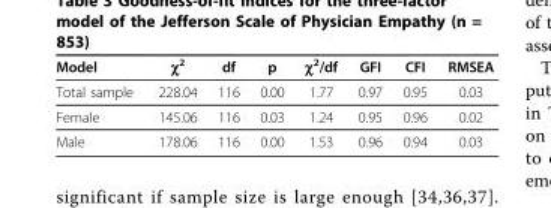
<table><thead><tr><td>Model</td><td>χ<sup>2</sup></td><td>df</td><td>p</td><td>χ<sup>2</sup>/df</td><td>GFI</td><td>CFI</td><td>RMSEA</td></tr></thead><tbody><tr><td>Total sample</td><td>228.04</td><td>116</td><td>0.00</td><td>1.77</td><td>0.97</td><td>0.95</td><td>0.03</td></tr><tr><td>Female</td><td>145.06</td><td>116</td><td>0.03</td><td>1.24</td><td>0.95</td><td>0.96</td><td>0.02</td></tr><tr><td>Male</td><td>178.06</td><td>116</td><td>0.00</td><td>1.53</td><td>0.96</td><td>0.94</td><td>0.03</td></tr></tbody></table>